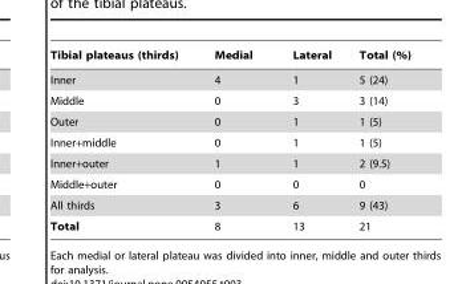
<table><thead><tr><td>Tibial plateaus (thirds)</td><td>Medial</td><td>Lateral</td><td>Total (%)</td></tr></thead><tbody><tr><td>Inner</td><td>4</td><td>1</td><td>5 (24)</td></tr><tr><td>Middle</td><td>0</td><td>3</td><td>3 (14)</td></tr><tr><td>Outer</td><td>0</td><td>1</td><td>1 (5)</td></tr><tr><td>Inner+middle</td><td>0</td><td>1</td><td>1 (5)</td></tr><tr><td>Inner+outer</td><td>1</td><td>1</td><td>2 (9.5)</td></tr><tr><td>Middle+outer</td><td>0</td><td>0</td><td>0</td></tr><tr><td>All thirds</td><td>3</td><td>6</td><td>9 (43)</td></tr><tr><td>Total</td><td>8</td><td>13</td><td>21</td></tr></tbody></table>